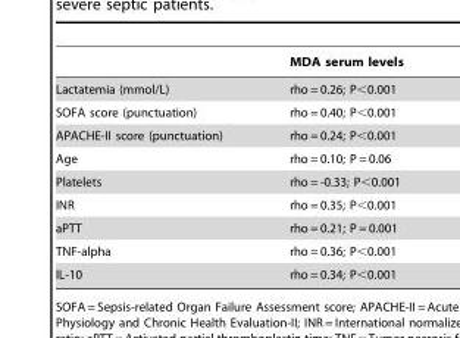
<table><thead><tr><td></td><td>MDA serum levels</td></tr></thead><tbody><tr><td>Lactatemia (mmol/L)</td><td>rho = 0.26; P&lt;0.001</td></tr><tr><td>SOFA score (punctuation)</td><td>rho = 0.40; P&lt;0.001</td></tr><tr><td>APACHE-II score (punctuation)</td><td>rho = 0.24; P&lt;0.001</td></tr><tr><td>Age</td><td>rho = 0.10; P = 0.06</td></tr><tr><td>Platelets</td><td>rho = -0.33; P&lt;0.001</td></tr><tr><td>INR</td><td>rho = 0.35; P&lt;0.001</td></tr><tr><td>aPTT</td><td>rho = 0.21; P = 0.001</td></tr><tr><td>TNF-alpha</td><td>rho = 0.36; P&lt;0.001</td></tr><tr><td>IL-10</td><td>rho = 0.34; P&lt;0.001</td></tr></tbody></table>